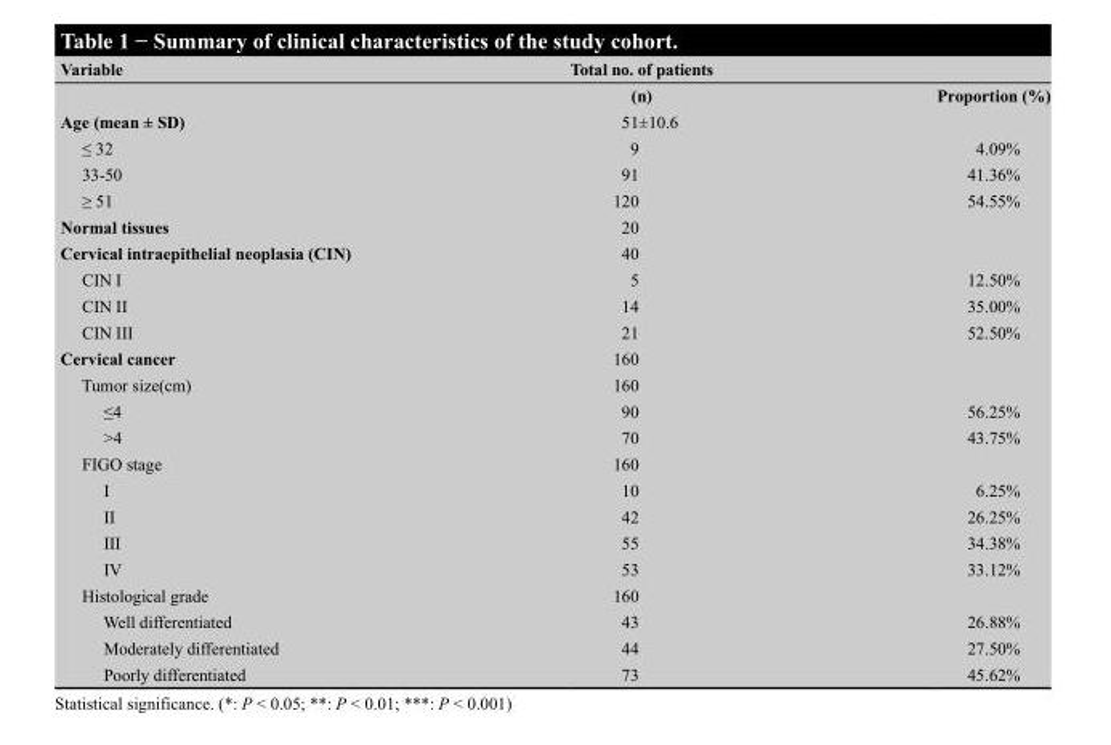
<table><thead><tr><td>Variable</td><td>Total no. of patients</td><td></td></tr></thead><tbody><tr><td></td><td>(n)</td><td>Proportion (%)</td></tr><tr><td>Age (mean ± SD)</td><td>51±10.6</td><td></td></tr><tr><td>≤ 32</td><td>9</td><td>4.09%</td></tr><tr><td>33-50</td><td>91</td><td>41.36%</td></tr><tr><td>≥ 51</td><td>120</td><td>54.55%</td></tr><tr><td>Normal tissues</td><td>20</td><td></td></tr><tr><td>Cervical intraepithelial neoplasia (CIN)</td><td>40</td><td></td></tr><tr><td>CIN I</td><td>5</td><td>12.50%</td></tr><tr><td>CIN II</td><td>14</td><td>35.00%</td></tr><tr><td>CIN III</td><td>21</td><td>52.50%</td></tr><tr><td>Cervical cancer</td><td>160</td><td></td></tr><tr><td>Tumor size(cm)</td><td>160</td><td></td></tr><tr><td>≤4</td><td>90</td><td>56.25%</td></tr><tr><td>&gt;4</td><td>70</td><td>43.75%</td></tr><tr><td>FIGO stage</td><td>160</td><td></td></tr><tr><td>I</td><td>10</td><td>6.25%</td></tr><tr><td>II</td><td>42</td><td>26.25%</td></tr><tr><td>III</td><td>55</td><td>34.38%</td></tr><tr><td>IV</td><td>53</td><td>33.12%</td></tr><tr><td>Histological grade</td><td>160</td><td></td></tr><tr><td>Well differentiated</td><td>43</td><td>26.88%</td></tr><tr><td>Moderately differentiated</td><td>44</td><td>27.50%</td></tr><tr><td>Poorly differentiated</td><td>73</td><td>45.62%</td></tr></tbody></table>